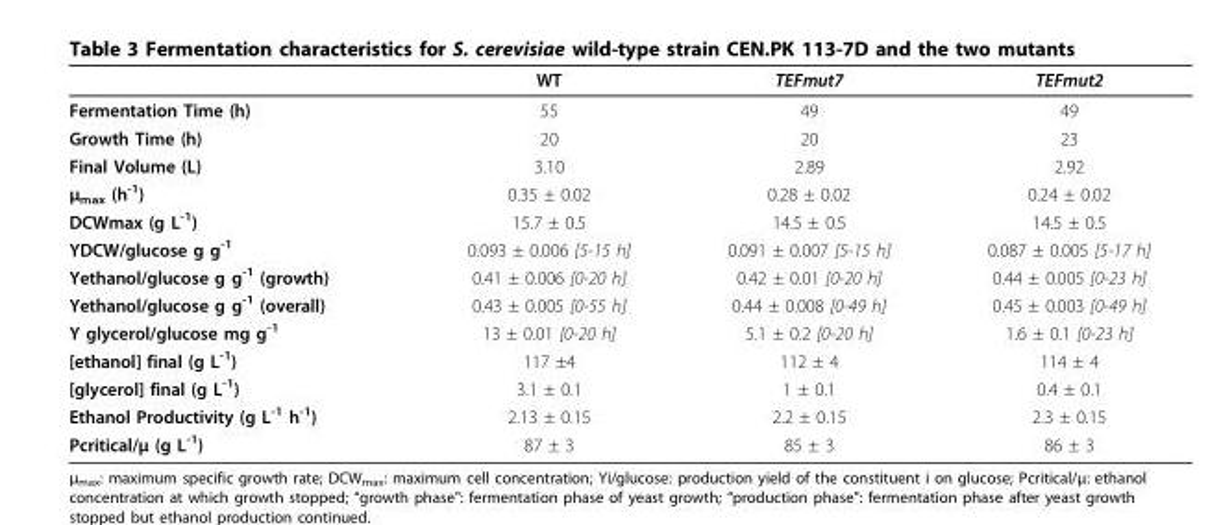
<table><thead><tr><td></td><td>WT</td><td>TEFmut7</td><td>TEFmut2</td></tr></thead><tbody><tr><td>Fermentation Time (h)</td><td>55</td><td>49</td><td>49</td></tr><tr><td>Growth Time (h)</td><td>20</td><td>20</td><td>23</td></tr><tr><td>Final Volume (L)</td><td>3.10</td><td>2.89</td><td>2.92</td></tr><tr><td>μ<sub>max</sub> (h<sup>-1</sup>)</td><td>0.35 ± 0.02</td><td>0.28 ± 0.02</td><td>0.24 ± 0.02</td></tr><tr><td>DCWmax (g L<sup>-1</sup>)</td><td>15.7 ± 0.5</td><td>14.5 ± 0.5</td><td>14.5 ± 0.5</td></tr><tr><td>YDCW/glucose g g<sup>-1</sup></td><td>0.093 ± 0.006 [5-15 h]</td><td>0.091 ± 0.007 [5-15 h]</td><td>0.087 ± 0.005 [5-17 h]</td></tr><tr><td>Yethanol/glucose g g<sup>-1</sup> (growth)</td><td>0.41 ± 0.006 [0-20 h]</td><td>0.42 ± 0.01 [0-20 h]</td><td>0.44 ± 0.005 [0-23 h]</td></tr><tr><td>Yethanol/glucose g g<sup>-1</sup> (overall)</td><td>0.43 ± 0.005 [0-55 h]</td><td>0.44 ± 0.008 [0-49 h]</td><td>0.45 ± 0.003 [0-49 h]</td></tr><tr><td>Y glycerol/glucose mg g<sup>-1</sup></td><td>13 ± 0.01 [0-20 h]</td><td>5.1 ± 0.2 [0-20 h]</td><td>1.6 ± 0.1 [0-23 h]</td></tr><tr><td>[ethanol] final (g L<sup>-1</sup>)</td><td>117 ±4</td><td>112 ± 4</td><td>114 ± 4</td></tr><tr><td>[glycerol] final (g L<sup>-1</sup>)</td><td>3.1 ± 0.1</td><td>1 ± 0.1</td><td>0.4 ± 0.1</td></tr><tr><td>Ethanol Productivity (g L<sup>-1</sup> h<sup>-1</sup>)</td><td>2.13 ± 0.15</td><td>2.2 ± 0.15</td><td>2.3 ± 0.15</td></tr><tr><td>Pcritical/μ (g L<sup>-1</sup>)</td><td>87 ± 3</td><td>85 ± 3</td><td>86 ± 3</td></tr></tbody></table>